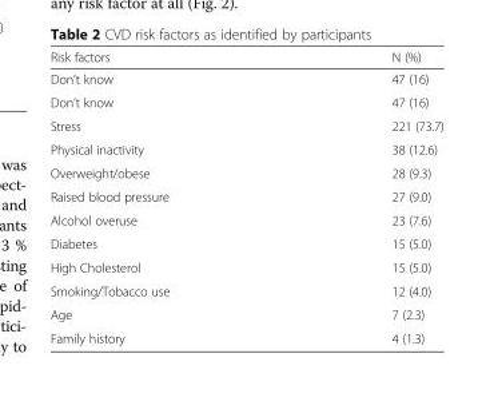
<table><thead><tr><td>Risk factors</td><td>N (%)</td></tr></thead><tbody><tr><td>Don’t know</td><td>47 (16)</td></tr><tr><td>Don’t know</td><td>47 (16)</td></tr><tr><td>Stress</td><td>221 (73.7)</td></tr><tr><td>Physical inactivity</td><td>38 (12.6)</td></tr><tr><td>Overweight/obese</td><td>28 (9.3)</td></tr><tr><td>Raised blood pressure</td><td>27 (9.0)</td></tr><tr><td>Alcohol overuse</td><td>23 (7.6)</td></tr><tr><td>Diabetes</td><td>15 (5.0)</td></tr><tr><td>High Cholesterol</td><td>15 (5.0)</td></tr><tr><td>Smoking/Tobacco use</td><td>12 (4.0)</td></tr><tr><td>Age</td><td>7 (2.3)</td></tr><tr><td>Family history</td><td>4 (1.3)</td></tr></tbody></table>